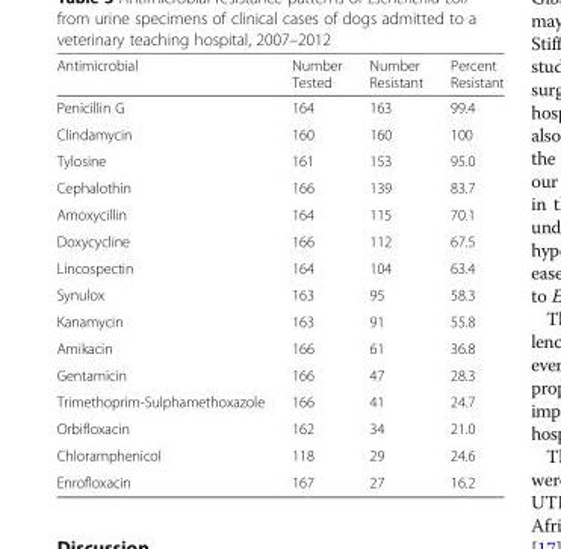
<table><thead><tr><td>Antimicrobial</td><td>Number Tested</td><td>Number Resistant</td><td>Percent Resistant</td></tr></thead><tbody><tr><td>Penicillin G</td><td>164</td><td>163</td><td>99.4</td></tr><tr><td>Clindamycin</td><td>160</td><td>160</td><td>100</td></tr><tr><td>Tylosine</td><td>161</td><td>153</td><td>95.0</td></tr><tr><td>Cephalothin</td><td>166</td><td>139</td><td>83.7</td></tr><tr><td>Amoxycillin</td><td>164</td><td>115</td><td>70.1</td></tr><tr><td>Doxycycline</td><td>166</td><td>112</td><td>67.5</td></tr><tr><td>Lincospectin</td><td>164</td><td>104</td><td>63.4</td></tr><tr><td>Synulox</td><td>163</td><td>95</td><td>58.3</td></tr><tr><td>Kanamycin</td><td>163</td><td>91</td><td>55.8</td></tr><tr><td>Amikacin</td><td>166</td><td>61</td><td>36.8</td></tr><tr><td>Gentamicin</td><td>166</td><td>47</td><td>28.3</td></tr><tr><td>Trimethoprim-Sulphamethoxazole</td><td>166</td><td>41</td><td>24.7</td></tr><tr><td>Orbifloxacin</td><td>162</td><td>34</td><td>21.0</td></tr><tr><td>Chloramphenicol</td><td>118</td><td>29</td><td>24.6</td></tr><tr><td>Enrofloxacin</td><td>167</td><td>27</td><td>16.2</td></tr></tbody></table>